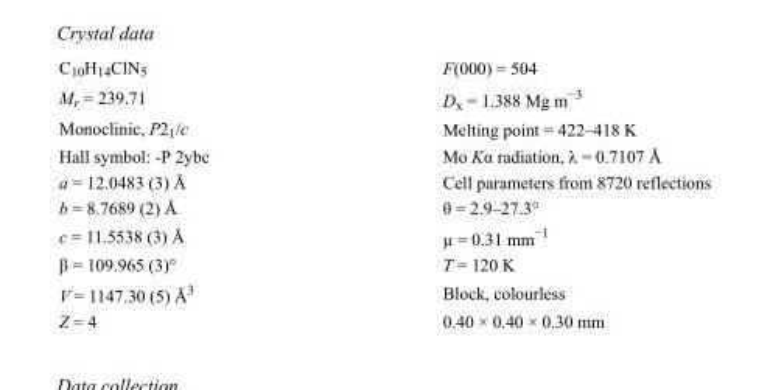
<table><tbody><tr><td>C<sub>10</sub>H<sub>14</sub>ClN<sub>5</sub></td><td>F(000) = 504</td></tr><tr><td>M<sub>r</sub> = 239.71</td><td>D<sub>x</sub> = 1.388 Mg m<sup>−3</sup></td></tr><tr><td>Monoclinic, P2<sub>1</sub>/c</td><td>Melting point = 422–418 K</td></tr><tr><td>Hall symbol: -P 2ybc</td><td>Mo Kα radiation, λ = 0.7107 Å</td></tr><tr><td>a = 12.0483 (3) Å</td><td>Cell parameters from 8720 reflections</td></tr><tr><td>b = 8.7689 (2) Å</td><td>θ = 2.9–27.3°</td></tr><tr><td>c = 11.5538 (3) Å</td><td>µ = 0.31 mm<sup>−1</sup></td></tr><tr><td>β = 109.965 (3)°</td><td>T = 120 K</td></tr><tr><td>V = 1147.30 (5) Å<sup>3</sup></td><td>Block, colourless</td></tr><tr><td>Z = 4</td><td>0.40 × 0.40 × 0.30 mm</td></tr></tbody></table>